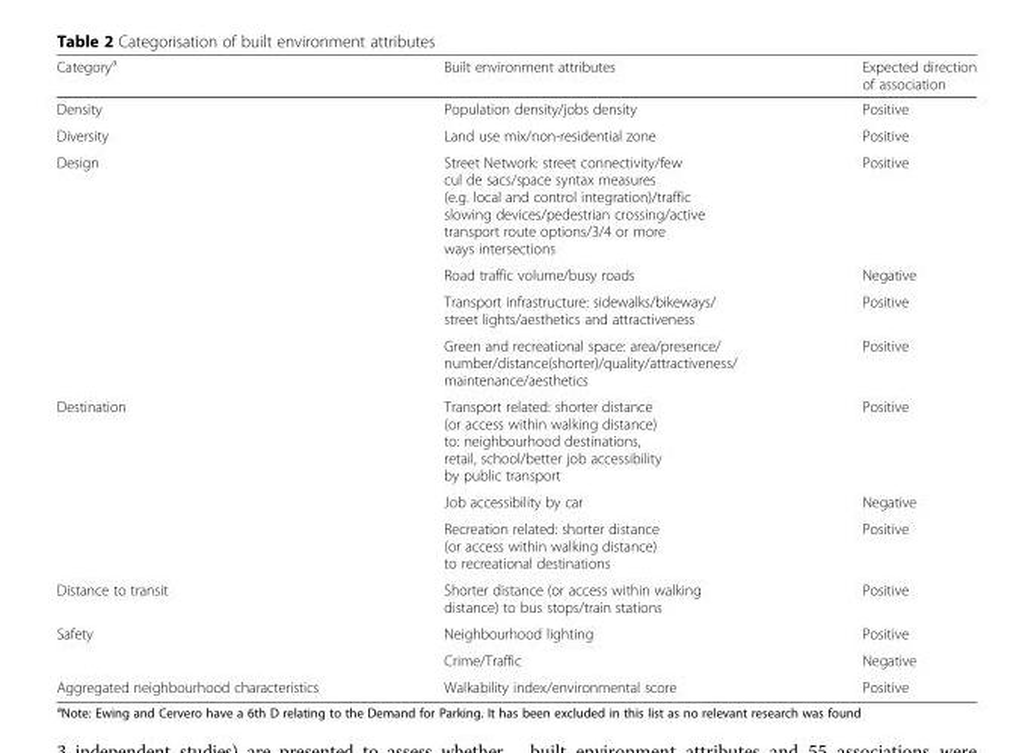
<table><thead><tr><td>Category<sup>a</sup></td><td>Built environment attributes</td><td>Expected direction of association</td></tr></thead><tbody><tr><td>Density</td><td>Population density/jobs density</td><td>Positive</td></tr><tr><td>Diversity</td><td>Land use mix/non-residential zone</td><td>Positive</td></tr><tr><td rowspan="4">Design</td><td>Street Network: street connectivity/few cul de sacs/space syntax measures (e.g. local and control integration)/traffic slowing devices/pedestrian crossing/active transport route options/3/4 or more ways intersections</td><td>Positive</td></tr><tr><td>Road traffic volume/busy roads</td><td>Negative</td></tr><tr><td>Transport infrastructure: sidewalks/bikeways/ street lights/aesthetics and attractiveness</td><td>Positive</td></tr><tr><td>Green and recreational space: area/presence/ number/distance(shorter)/quality/attractiveness/ maintenance/aesthetics</td><td>Positive</td></tr><tr><td rowspan="3">Destination</td><td>Transport related: shorter distance (or access within walking distance) to: neighbourhood destinations, retail, school/better job accessibility by public transport</td><td>Positive</td></tr><tr><td>Job accessibility by car</td><td>Negative</td></tr><tr><td>Recreation related: shorter distance (or access within walking distance) to recreational destinations</td><td>Positive</td></tr><tr><td>Distance to transit</td><td>Shorter distance (or access within walking distance) to bus stops/train stations</td><td>Positive</td></tr><tr><td rowspan="2">Safety</td><td>Neighbourhood lighting</td><td>Positive</td></tr><tr><td>Crime/Traffic</td><td>Negative</td></tr><tr><td>Aggregated neighbourhood characteristics</td><td>Walkability index/environmental score</td><td>Positive</td></tr></tbody></table>